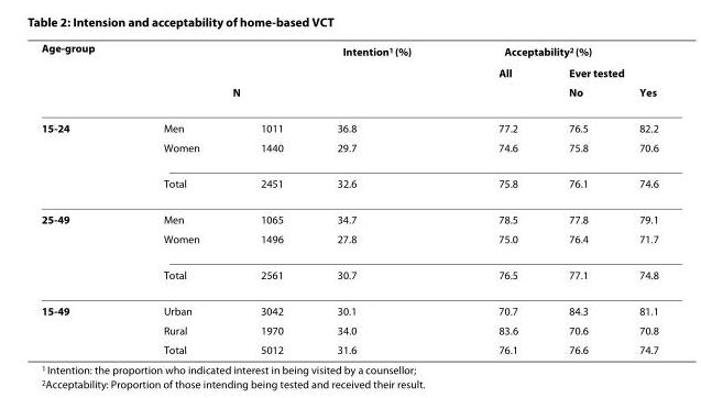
<table><thead><tr><td rowspan="3">Age-group</td><td rowspan="2"></td><td rowspan="2"></td><td rowspan="3">Intention<sup>1</sup> (%)</td><td colspan="3">Acceptability<sup>2</sup> (%)</td></tr><tr><td rowspan="2">All</td><td colspan="2">Ever tested</td></tr><tr><td colspan="2">N</td><td>No</td><td>Yes</td></tr></thead><tbody><tr><td rowspan="3">15-24</td><td>Men</td><td>1011</td><td>36.8</td><td>77.2</td><td>76.5</td><td>82.2</td></tr><tr><td>Women</td><td>1440</td><td>29.7</td><td>74.6</td><td>75.8</td><td>70.6</td></tr><tr><td>Total</td><td>2451</td><td>32.6</td><td>75.8</td><td>76.1</td><td>74.6</td></tr><tr><td rowspan="3">25-49</td><td>Men</td><td>1065</td><td>34.7</td><td>78.5</td><td>77.8</td><td>79.1</td></tr><tr><td>Women</td><td>1496</td><td>27.8</td><td>75.0</td><td>76.4</td><td>71.7</td></tr><tr><td>Total</td><td>2561</td><td>30.7</td><td>76.5</td><td>77.1</td><td>74.8</td></tr><tr><td rowspan="3">15-49</td><td>Urban</td><td>3042</td><td>30.1</td><td>70.7</td><td>84.3</td><td>81.1</td></tr><tr><td>Rural</td><td>1970</td><td>34.0</td><td>83.6</td><td>70.6</td><td>70.8</td></tr><tr><td>Total</td><td>5012</td><td>31.6</td><td>76.1</td><td>76.6</td><td>74.7</td></tr></tbody></table>